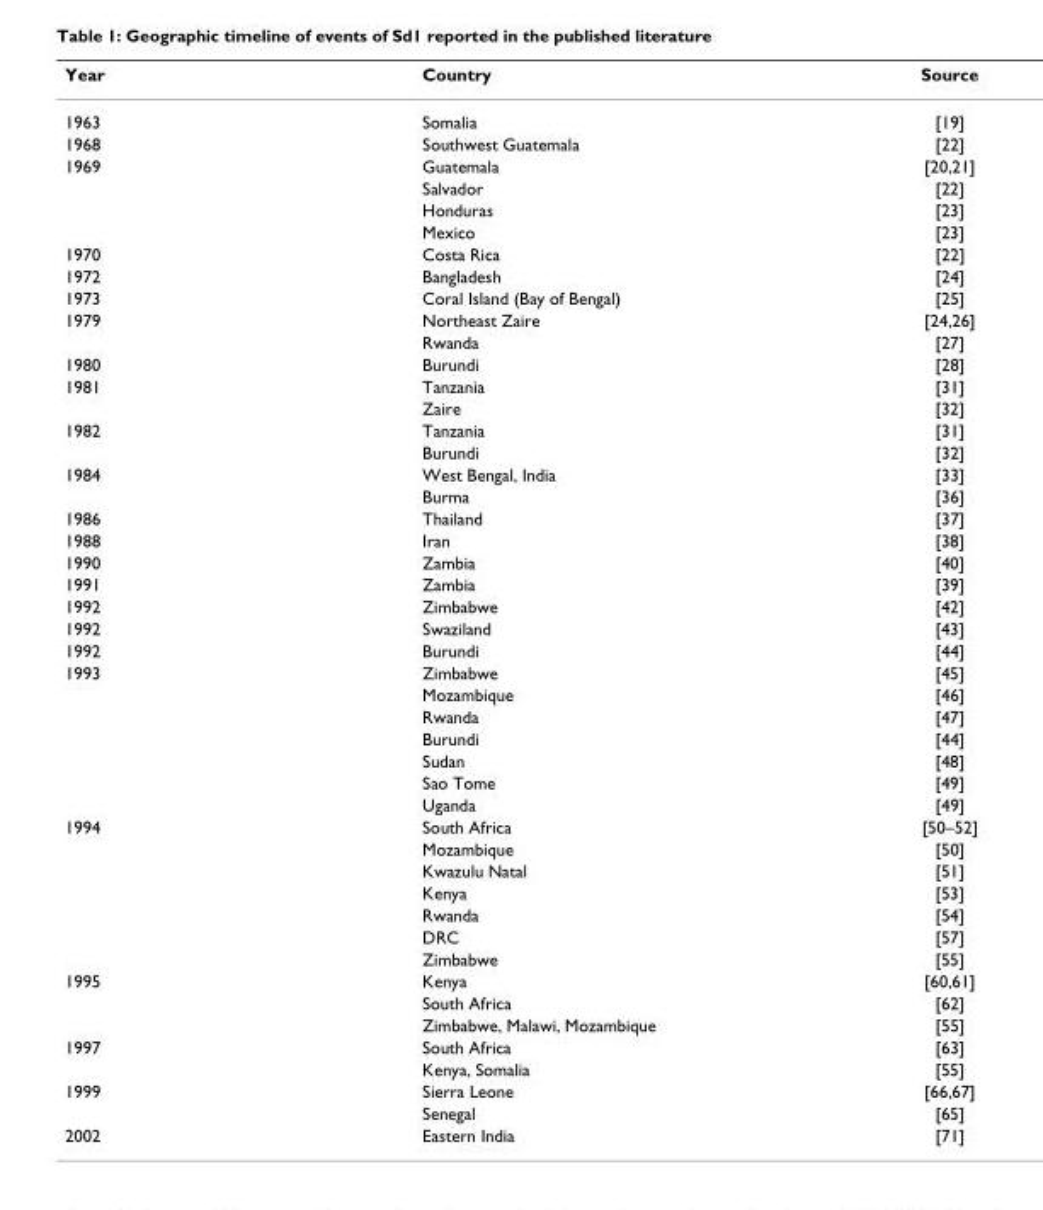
<table><thead><tr><td>Year</td><td>Country</td><td>Source</td></tr></thead><tbody><tr><td>1963</td><td>Somalia</td><td>[19]</td></tr><tr><td>1968</td><td>Southwest Guatemala</td><td>[22]</td></tr><tr><td rowspan="4">1969</td><td>Guatemala</td><td>[20,21]</td></tr><tr><td>Salvador</td><td>[22]</td></tr><tr><td>Honduras</td><td>[23]</td></tr><tr><td>Mexico</td><td>[23]</td></tr><tr><td>1970</td><td>Costa Rica</td><td>[22]</td></tr><tr><td>1972</td><td>Bangladesh</td><td>[24]</td></tr><tr><td>1973</td><td>Coral Island (Bay of Bengal)</td><td>[25]</td></tr><tr><td rowspan="2">1979</td><td>Northeast Zaire</td><td>[24,26]</td></tr><tr><td>Rwanda</td><td>[27]</td></tr><tr><td>1980</td><td>Burundi</td><td>[28]</td></tr><tr><td rowspan="2">1981</td><td>Tanzania</td><td>[31]</td></tr><tr><td>Zaire</td><td>[32]</td></tr><tr><td rowspan="2">1982</td><td>Tanzania</td><td>[31]</td></tr><tr><td>Burundi</td><td>[32]</td></tr><tr><td rowspan="2">1984</td><td>West Bengal, India</td><td>[33]</td></tr><tr><td>Burma</td><td>[36]</td></tr><tr><td>1986</td><td>Thailand</td><td>[37]</td></tr><tr><td>1988</td><td>Iran</td><td>[38]</td></tr><tr><td>1990</td><td>Zambia</td><td>[40]</td></tr><tr><td>1991</td><td>Zambia</td><td>[39]</td></tr><tr><td>1992</td><td>Zimbabwe</td><td>[42]</td></tr><tr><td>1992</td><td>Swaziland</td><td>[43]</td></tr><tr><td>1992</td><td>Burundi</td><td>[44]</td></tr><tr><td rowspan="7">1993</td><td>Zimbabwe</td><td>[45]</td></tr><tr><td>Mozambique</td><td>[46]</td></tr><tr><td>Rwanda</td><td>[47]</td></tr><tr><td>Burundi</td><td>[44]</td></tr><tr><td>Sudan</td><td>[48]</td></tr><tr><td>Sao Tome</td><td>[49]</td></tr><tr><td>Uganda</td><td>[49]</td></tr><tr><td rowspan="7">1994</td><td>South Africa</td><td>[50–52]</td></tr><tr><td>Mozambique</td><td>[50]</td></tr><tr><td>Kwazulu Natal</td><td>[51]</td></tr><tr><td>Kenya</td><td>[53]</td></tr><tr><td>Rwanda</td><td>[54]</td></tr><tr><td>DRC</td><td>[57]</td></tr><tr><td>Zimbabwe</td><td>[55]</td></tr><tr><td rowspan="3">1995</td><td>Kenya</td><td>[60,61]</td></tr><tr><td>South Africa</td><td>[62]</td></tr><tr><td>Zimbabwe, Malawi, Mozambique</td><td>[55]</td></tr><tr><td rowspan="2">1997</td><td>South Africa</td><td>[63]</td></tr><tr><td>Kenya, Somalia</td><td>[55]</td></tr><tr><td rowspan="2">1999</td><td>Sierra Leone</td><td>[66,67]</td></tr><tr><td>Senegal</td><td>[65]</td></tr><tr><td>2002</td><td>Eastern India</td><td>[71]</td></tr></tbody></table>